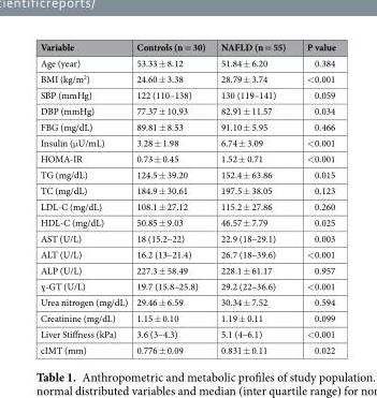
<table><thead><tr><td>Variable</td><td>Controls (n = 30)</td><td>NAFLD (n = 55)</td><td>P value</td></tr></thead><tbody><tr><td>Age (year)</td><td>53.33 ± 8.12</td><td>51.84 ± 6.20</td><td>0.384</td></tr><tr><td>BMI (kg/m<sup>2</sup>)</td><td>24.60 ± 3.38</td><td>28.79 ± 3.74</td><td>&lt;0.001</td></tr><tr><td>SBP (mmHg)</td><td>122 (110–138)</td><td>130 (119–141)</td><td>0.059</td></tr><tr><td>DBP (mmHg)</td><td>77.37 ± 10.93</td><td>82.91 ± 11.57</td><td>0.034</td></tr><tr><td>FBG (mg/dL)</td><td>89.81 ± 8.53</td><td>91.10 ± 5.95</td><td>0.466</td></tr><tr><td>Insulin (μU/mL)</td><td>3.28 ± 1.98</td><td>6.74 ± 3.09</td><td>&lt;0.001</td></tr><tr><td>HOMA-IR</td><td>0.73 ± 0.45</td><td>1.52 ± 0.71</td><td>&lt;0.001</td></tr><tr><td>TG (mg/dL)</td><td>124.5 ± 39.20</td><td>152.4 ± 63.86</td><td>0.015</td></tr><tr><td>TC (mg/dL)</td><td>184.9 ± 30.61</td><td>197.5 ± 38.05</td><td>0.123</td></tr><tr><td>LDL-C (mg/dL)</td><td>108.1 ± 27.12</td><td>115.2 ± 27.86</td><td>0.260</td></tr><tr><td>HDL-C (mg/dL)</td><td>50.85 ± 9.03</td><td>46.57 ± 7.79</td><td>0.025</td></tr><tr><td>AST (U/L)</td><td>18 (15.2–22)</td><td>22.9 (18–29.1)</td><td>0.003</td></tr><tr><td>ALT (U/L)</td><td>16.2 (13–21.4)</td><td>26.7 (18–39.6)</td><td>&lt;0.001</td></tr><tr><td>ALP (U/L)</td><td>227.3 ± 58.49</td><td>228.1 ± 61.17</td><td>0.957</td></tr><tr><td>ɣ-GT (U/L)</td><td>19.7 (15.8–25.8)</td><td>29.2 (22–36.6)</td><td>&lt;0.001</td></tr><tr><td>Urea nitrogen (mg/dL)</td><td>29.46 ± 6.59</td><td>30.34 ± 7.52</td><td>0.594</td></tr><tr><td>Creatinine (mg/dL)</td><td>1.15 ± 0.10</td><td>1.19 ± 0.11</td><td>0.099</td></tr><tr><td>Liver Stiffness (kPa)</td><td>3.6 (3–4.3)</td><td>5.1 (4–6.1)</td><td>&lt;0.001</td></tr><tr><td>cIMT (mm)</td><td>0.776 ± 0.09</td><td>0.831 ± 0.11</td><td>0.022</td></tr></tbody></table>